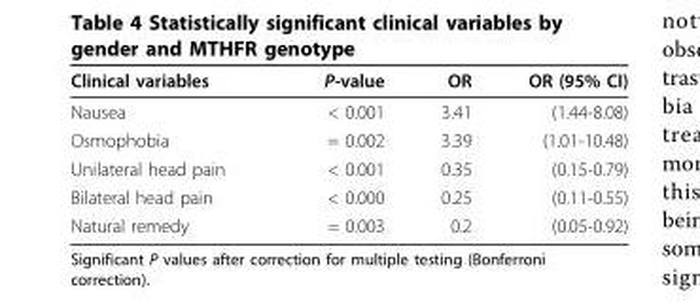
<table><thead><tr><td>Clinical variables</td><td>P-value</td><td>OR</td><td>OR (95% CI)</td></tr></thead><tbody><tr><td>Nausea</td><td>&lt; 0.001</td><td>3.41</td><td>(1.44-8.08)</td></tr><tr><td>Osmophobia</td><td>= 0.002</td><td>3.39</td><td>(1.01-10.48)</td></tr><tr><td>Unilateral head pain</td><td>&lt; 0.001</td><td>0.35</td><td>(0.15-0.79)</td></tr><tr><td>Bilateral head pain</td><td>&lt; 0.000</td><td>0.25</td><td>(0.11-0.55)</td></tr><tr><td>Natural remedy</td><td>= 0.003</td><td>0.2</td><td>(0.05-0.92)</td></tr></tbody></table>